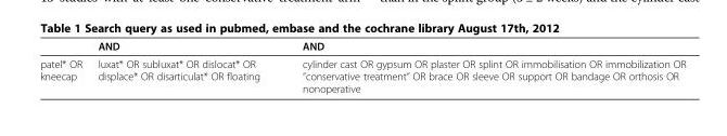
<table><thead><tr><td></td><td>AND</td><td>AND</td></tr></thead><tbody><tr><td>patel* OR kneecap</td><td>luxat* OR subluxat* OR dislocat* OR displace* OR disarticulat* OR floating</td><td>cylinder cast OR gypsum OR plaster OR splint OR immobilisation OR immobilization OR “conservative treatment” OR brace OR sleeve OR support OR bandage OR orthosis OR nonoperative</td></tr></tbody></table>